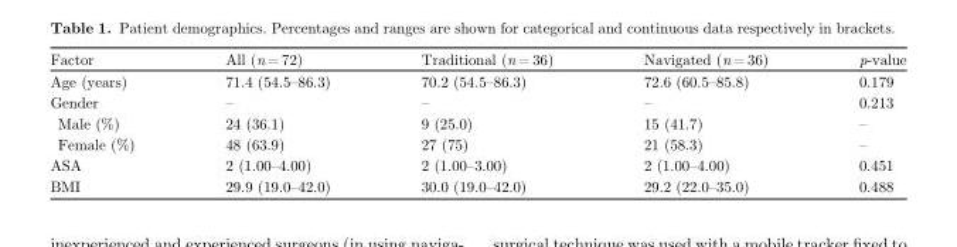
<table><thead><tr><td>Factor</td><td>All (n = 72)</td><td>Traditional (n = 36)</td><td>Navigated (n = 36)</td><td>p-value</td></tr></thead><tbody><tr><td>Age (years)</td><td>71.4 (54.5–86.3)</td><td>70.2 (54.5–86.3)</td><td>72.6 (60.5–85.8)</td><td>0.179</td></tr><tr><td>Gender</td><td>–</td><td>–</td><td>–</td><td>0.213</td></tr><tr><td>Male (%)</td><td>24 (36.1)</td><td>9 (25.0)</td><td>15 (41.7)</td><td>–</td></tr><tr><td>Female (%)</td><td>48 (63.9)</td><td>27 (75)</td><td>21 (58.3)</td><td>–</td></tr><tr><td>ASA</td><td>2 (1.00–4.00)</td><td>2 (1.00–3.00)</td><td>2 (1.00–4.00)</td><td>0.451</td></tr><tr><td>BMI</td><td>29.9 (19.0–42.0)</td><td>30.0 (19.0–42.0)</td><td>29.2 (22.0–35.0)</td><td>0.488</td></tr></tbody></table>